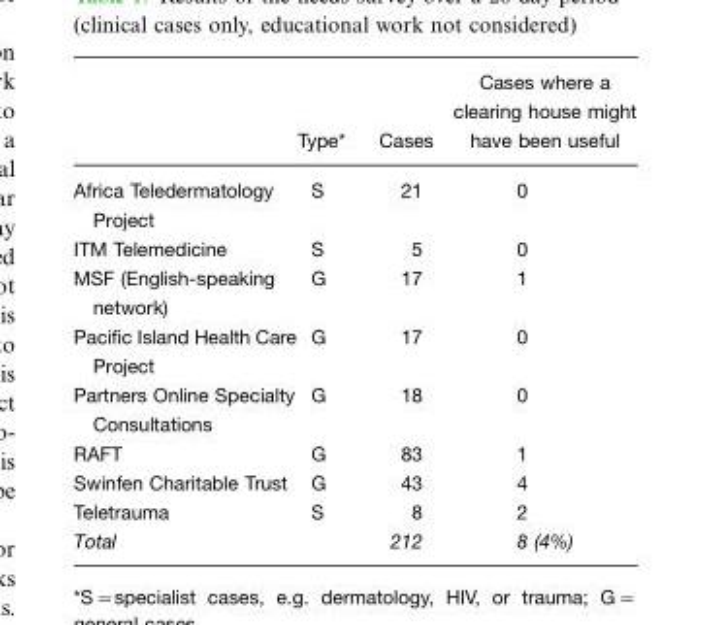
<table><thead><tr><td></td><td>Type*</td><td>Cases</td><td>Cases where a clearing house might have been useful</td></tr></thead><tbody><tr><td>Africa Teledermatology Project</td><td>S</td><td>21</td><td>0</td></tr><tr><td>ITM Telemedicine</td><td>S</td><td>5</td><td>0</td></tr><tr><td>MSF (English-speaking network)</td><td>G</td><td>17</td><td>1</td></tr><tr><td>Pacific Island Health Care Project</td><td>G</td><td>17</td><td>0</td></tr><tr><td>Partners Online Specialty Consultations</td><td>G</td><td>18</td><td>0</td></tr><tr><td>RAFT</td><td>G</td><td>83</td><td>1</td></tr><tr><td>Swinfen Charitable Trust</td><td>G</td><td>43</td><td>4</td></tr><tr><td>Teletrauma</td><td>S</td><td>8</td><td>2</td></tr><tr><td>Total</td><td></td><td>212</td><td>8 (4%)</td></tr></tbody></table>